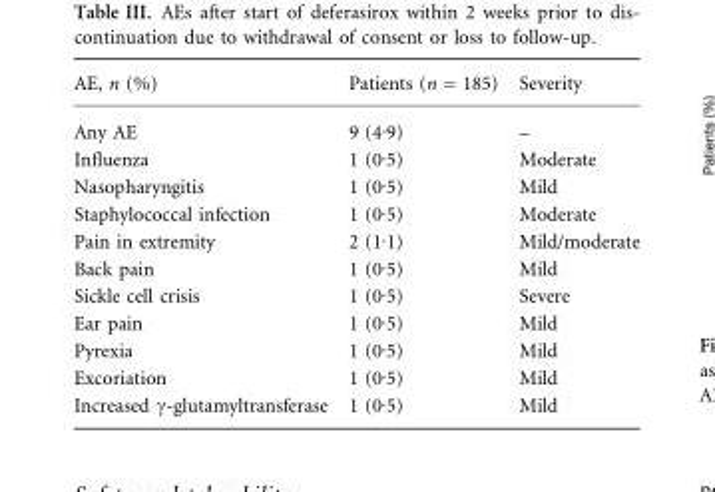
<table><thead><tr><td>AE, n (%)</td><td>Patients (n = 185)</td><td>Severity</td></tr></thead><tbody><tr><td>Any AE</td><td>9 (4Æ9)</td><td>–</td></tr><tr><td>Influenza</td><td>1 (0Æ5)</td><td>Moderate</td></tr><tr><td>Nasopharyngitis</td><td>1 (0Æ5)</td><td>Mild</td></tr><tr><td>Staphylococcal infection</td><td>1 (0Æ5)</td><td>Moderate</td></tr><tr><td>Pain in extremity</td><td>2 (1Æ1)</td><td>Mild/moderate</td></tr><tr><td>Back pain</td><td>1 (0Æ5)</td><td>Mild</td></tr><tr><td>Sickle cell crisis</td><td>1 (0Æ5)</td><td>Severe</td></tr><tr><td>Ear pain</td><td>1 (0Æ5)</td><td>Mild</td></tr><tr><td>Pyrexia</td><td>1 (0Æ5)</td><td>Mild</td></tr><tr><td>Excoriation</td><td>1 (0Æ5)</td><td>Mild</td></tr><tr><td>Increased γ-glutamyltransferase</td><td>1 (0Æ5)</td><td>Mild</td></tr></tbody></table>